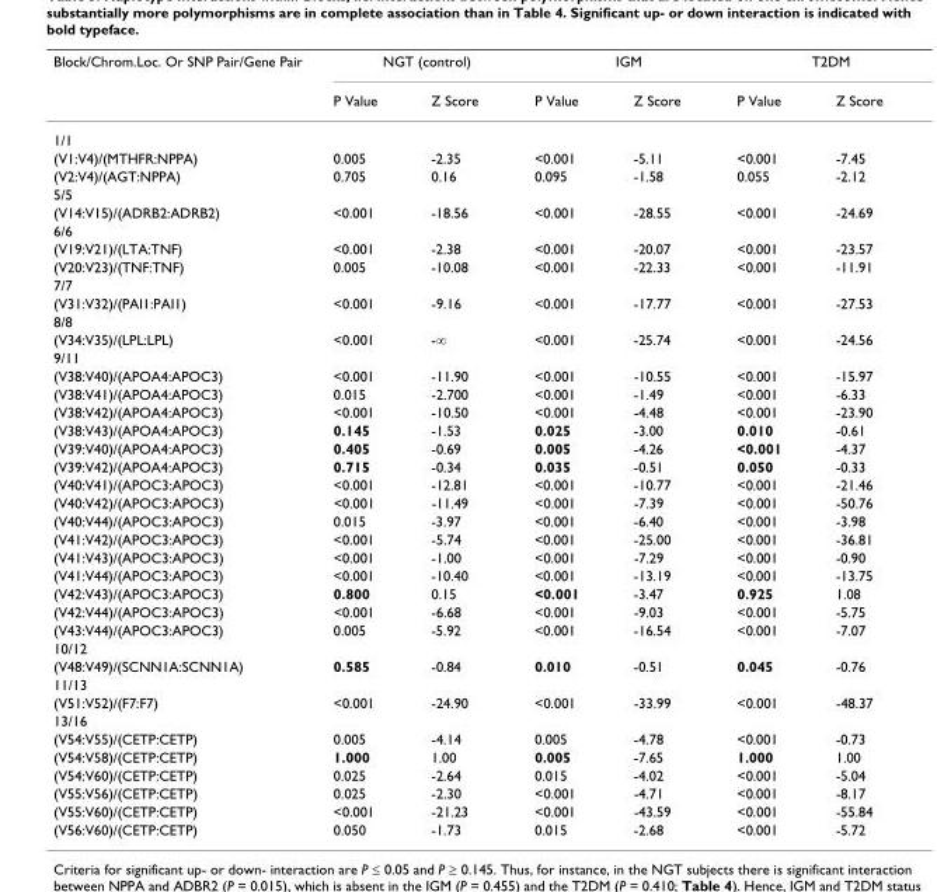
<table><thead><tr><td rowspan="2">Block/Chrom.Loc. Or SNP Pair/Gene Pair</td><td colspan="2">NGT (control)</td><td colspan="2">IGM</td><td colspan="2">T2DM</td></tr><tr><td>P Value</td><td>Z Score</td><td>P Value</td><td>Z Score</td><td>P Value</td><td>Z Score</td></tr></thead><tbody><tr><td colspan="7">1/1</td></tr><tr><td>(V1:V4)/(MTHFR:NPPA)</td><td>0.005</td><td>-2.35</td><td>&lt;0.001</td><td>-5.11</td><td>&lt;0.001</td><td>-7.45</td></tr><tr><td>(V2:V4)/(AGT:NPPA)</td><td>0.705</td><td>0.16</td><td>0.095</td><td>-1.58</td><td>0.055</td><td>-2.12</td></tr><tr><td colspan="7">5/5</td></tr><tr><td>(V14:V15)/(ADRB2:ADRB2)</td><td>&lt;0.001</td><td>-18.56</td><td>&lt;0.001</td><td>-28.55</td><td>&lt;0.001</td><td>-24.69</td></tr><tr><td colspan="7">6/6</td></tr><tr><td>(V19:V21)/(LTA:TNF)</td><td>&lt;0.001</td><td>-2.38</td><td>&lt;0.001</td><td>-20.07</td><td>&lt;0.001</td><td>-23.57</td></tr><tr><td>(V20:V23)/(TNF:TNF)</td><td>0.005</td><td>-10.08</td><td>&lt;0.001</td><td>-22.33</td><td>&lt;0.001</td><td>-11.91</td></tr><tr><td colspan="7">7/7</td></tr><tr><td>(V31:V32)/(PAI1:PAI1)</td><td>&lt;0.001</td><td>-9.16</td><td>&lt;0.001</td><td>-17.77</td><td>&lt;0.001</td><td>-27.53</td></tr><tr><td colspan="7">8/8</td></tr><tr><td>(V34:V35)/(LPL:LPL)</td><td>&lt;0.001</td><td>-∞</td><td>&lt;0.001</td><td>-25.74</td><td>&lt;0.001</td><td>-24.56</td></tr><tr><td colspan="7">9/11</td></tr><tr><td>(V38:V40)/(APOA4:APOC3)</td><td>&lt;0.001</td><td>-11.90</td><td>&lt;0.001</td><td>-10.55</td><td>&lt;0.001</td><td>-15.97</td></tr><tr><td>(V38:V41)/(APOA4:APOC3)</td><td>0.015</td><td>-2.700</td><td>&lt;0.001</td><td>-1.49</td><td>&lt;0.001</td><td>-6.33</td></tr><tr><td>(V38:V42)/(APOA4:APOC3)</td><td>&lt;0.001</td><td>-10.50</td><td>&lt;0.001</td><td>-4.48</td><td>&lt;0.001</td><td>-23.90</td></tr><tr><td>(V38:V43)/(APOA4:APOC3)</td><td>0.145</td><td>-1.53</td><td>0.025</td><td>-3.00</td><td>0.010</td><td>-0.61</td></tr><tr><td>(V39:V40)/(APOA4:APOC3)</td><td>0.405</td><td>-0.69</td><td>0.005</td><td>-4.26</td><td>&lt;0.001</td><td>-4.37</td></tr><tr><td>(V39:V42)/(APOA4:APOC3)</td><td>0.715</td><td>-0.34</td><td>0.035</td><td>-0.51</td><td>0.050</td><td>-0.33</td></tr><tr><td>(V40:V41)/(APOC3:APOC3)</td><td>&lt;0.001</td><td>-12.81</td><td>&lt;0.001</td><td>-10.77</td><td>&lt;0.001</td><td>-21.46</td></tr><tr><td>(V40:V42)/(APOC3:APOC3)</td><td>&lt;0.001</td><td>-11.49</td><td>&lt;0.001</td><td>-7.39</td><td>&lt;0.001</td><td>-50.76</td></tr><tr><td>(V40:V44)/(APOC3:APOC3)</td><td>0.015</td><td>-3.97</td><td>&lt;0.001</td><td>-6.40</td><td>&lt;0.001</td><td>-3.98</td></tr><tr><td>(V41:V42)/(APOC3:APOC3)</td><td>&lt;0.001</td><td>-5.74</td><td>&lt;0.001</td><td>-25.00</td><td>&lt;0.001</td><td>-36.81</td></tr><tr><td>(V41:V43)/(APOC3:APOC3)</td><td>&lt;0.001</td><td>-1.00</td><td>&lt;0.001</td><td>-7.29</td><td>&lt;0.001</td><td>-0.90</td></tr><tr><td>(V41:V44)/(APOC3:APOC3)</td><td>&lt;0.001</td><td>-10.40</td><td>&lt;0.001</td><td>-13.19</td><td>&lt;0.001</td><td>-13.75</td></tr><tr><td>(V42:V43)/(APOC3:APOC3)</td><td>0.800</td><td>0.15</td><td>&lt;0.001</td><td>-3.47</td><td>0.925</td><td>1.08</td></tr><tr><td>(V42:V44)/(APOC3:APOC3)</td><td>&lt;0.001</td><td>-6.68</td><td>&lt;0.001</td><td>-9.03</td><td>&lt;0.001</td><td>-5.75</td></tr><tr><td>(V43:V44)/(APOC3:APOC3)</td><td>0.005</td><td>-5.92</td><td>&lt;0.001</td><td>-16.54</td><td>&lt;0.001</td><td>-7.07</td></tr><tr><td colspan="7">10/12</td></tr><tr><td>(V48:V49)/(SCNN1A:SCNN1A)</td><td>0.585</td><td>-0.84</td><td>0.010</td><td>-0.51</td><td>0.045</td><td>-0.76</td></tr><tr><td colspan="7">11/13</td></tr><tr><td>(V51:V52)/(F7:F7)</td><td>&lt;0.001</td><td>-24.90</td><td>&lt;0.001</td><td>-33.99</td><td>&lt;0.001</td><td>-48.37</td></tr><tr><td colspan="7">13/16</td></tr><tr><td>(V54:V55)/(CETP:CETP)</td><td>0.005</td><td>-4.14</td><td>0.005</td><td>-4.78</td><td>&lt;0.001</td><td>-0.73</td></tr><tr><td>(V54:V58)/(CETP:CETP)</td><td>1.000</td><td>1.00</td><td>0.005</td><td>-7.65</td><td>1.000</td><td>1.00</td></tr><tr><td>(V54:V60)/(CETP:CETP)</td><td>0.025</td><td>-2.64</td><td>0.015</td><td>-4.02</td><td>&lt;0.001</td><td>-5.04</td></tr><tr><td>(V55:V56)/(CETP:CETP)</td><td>0.025</td><td>-2.30</td><td>&lt;0.001</td><td>-4.71</td><td>&lt;0.001</td><td>-8.17</td></tr><tr><td>(V55:V60)/(CETP:CETP)</td><td>&lt;0.001</td><td>-21.23</td><td>&lt;0.001</td><td>-43.59</td><td>&lt;0.001</td><td>-55.84</td></tr><tr><td>(V56:V60)/(CETP:CETP)</td><td>0.050</td><td>-1.73</td><td>0.015</td><td>-2.68</td><td>&lt;0.001</td><td>-5.72</td></tr></tbody></table>